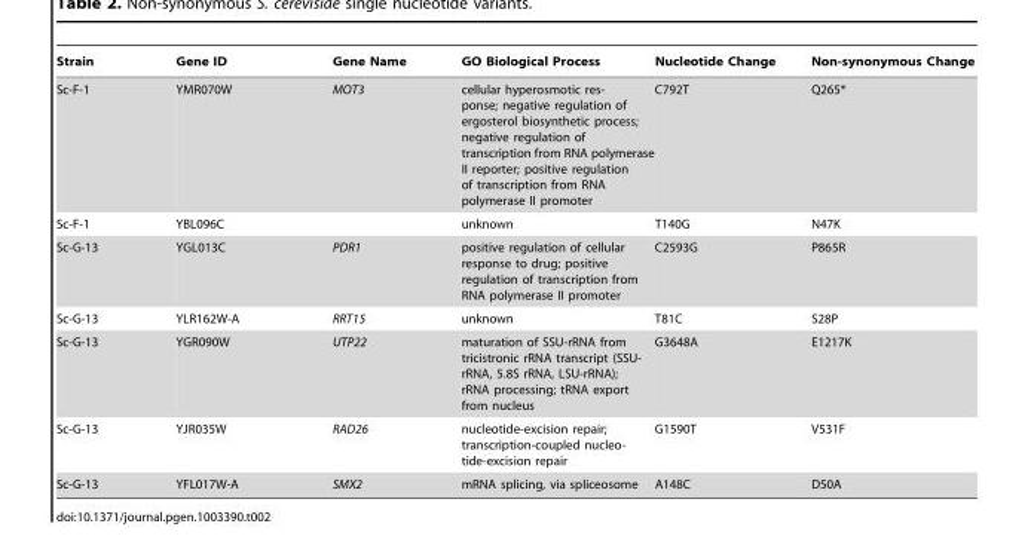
<table><thead><tr><td>Strain</td><td>Gene ID</td><td>Gene Name</td><td>GO Biological Process</td><td>Nucleotide Change</td><td>Non-synonymous Change</td></tr></thead><tbody><tr><td>Sc-F-1</td><td>YMR070W</td><td>MOT3</td><td>cellular hyperosmotic res- ponse; negative regulation of ergosterol biosynthetic process; negative regulation of transcription from RNA polymerase II reporter; positive regulation of transcription from RNA polymerase II promoter</td><td>C792T</td><td>Q265*</td></tr><tr><td>Sc-F-1</td><td>YBL096C</td><td></td><td>unknown</td><td>T140G</td><td>N47K</td></tr><tr><td>Sc-G-13</td><td>YGL013C</td><td>PDR1</td><td>positive regulation of cellular response to drug; positive regulation of transcription from RNA polymerase II promoter</td><td>C2593G</td><td>P865R</td></tr><tr><td>Sc-G-13</td><td>YLR162W-A</td><td>RRT15</td><td>unknown</td><td>T81C</td><td>S28P</td></tr><tr><td>Sc-G-13</td><td>YGR090W</td><td>UTP22</td><td>maturation of SSU-rRNA from tricistronic rRNA transcript (SSU- rRNA, 5.8S rRNA, LSU-rRNA); rRNA processing; tRNA export from nucleus</td><td>G3648A</td><td>E1217K</td></tr><tr><td>Sc-G-13</td><td>YJR035W</td><td>RAD26</td><td>nucleotide-excision repair; transcription-coupled nucleo- tide-excision repair</td><td>G1590T</td><td>V531F</td></tr><tr><td>Sc-G-13</td><td>YFL017W-A</td><td>SMX2</td><td>mRNA splicing, via spliceosome</td><td>A148C</td><td>D50A</td></tr></tbody></table>